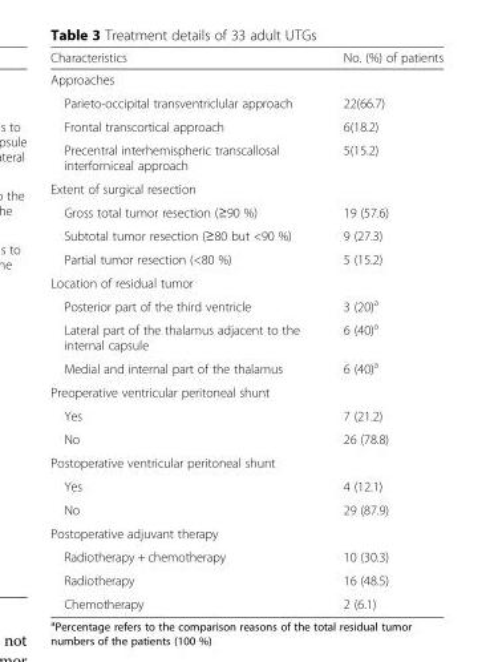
<table><thead><tr><td>Characteristics</td><td>No. (%) of patients</td></tr></thead><tbody><tr><td colspan="2">Approaches</td></tr><tr><td>Parieto-occipital transventriclular approach</td><td>22(66.7)</td></tr><tr><td>Frontal transcortical approach</td><td>6(18.2)</td></tr><tr><td>Precentral interhemispheric transcallosal interforniceal approach</td><td>5(15.2)</td></tr><tr><td colspan="2">Extent of surgical resection</td></tr><tr><td>Gross total tumor resection (≥90 %)</td><td>19 (57.6)</td></tr><tr><td>Subtotal tumor resection (≥80 but &lt;90 %)</td><td>9 (27.3)</td></tr><tr><td>Partial tumor resection (&lt;80 %)</td><td>5 (15.2)</td></tr><tr><td colspan="2">Location of residual tumor</td></tr><tr><td>Posterior part of the third ventricle</td><td>3 (20)<sup>a</sup></td></tr><tr><td>Lateral part of the thalamus adjacent to the internal capsule</td><td>6 (40)<sup>a</sup></td></tr><tr><td>Medial and internal part of the thalamus</td><td>6 (40)<sup>a</sup></td></tr><tr><td colspan="2">Preoperative ventricular peritoneal shunt</td></tr><tr><td>Yes</td><td>7 (21.2)</td></tr><tr><td>No</td><td>26 (78.8)</td></tr><tr><td colspan="2">Postoperative ventricular peritoneal shunt</td></tr><tr><td>Yes</td><td>4 (12.1)</td></tr><tr><td>No</td><td>29 (87.9)</td></tr><tr><td colspan="2">Postoperative adjuvant therapy</td></tr><tr><td>Radiotherapy + chemotherapy</td><td>10 (30.3)</td></tr><tr><td>Radiotherapy</td><td>16 (48.5)</td></tr><tr><td>Chemotherapy</td><td>2 (6.1)</td></tr></tbody></table>